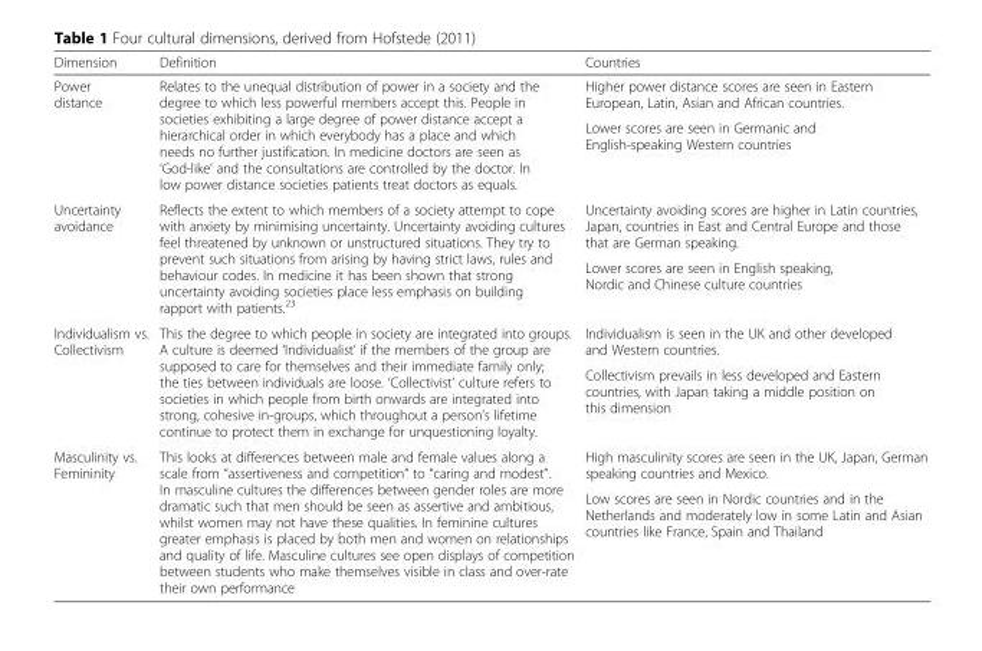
<table><thead><tr><td>Dimension</td><td>Definition</td><td>Countries</td></tr></thead><tbody><tr><td rowspan="2">Power distance</td><td rowspan="2">Relates to the unequal distribution of power in a society and the degree to which less powerful members accept this. People in societies exhibiting a large degree of power distance accept a hierarchical order in which everybody has a place and which needs no further justification. In medicine doctors are seen as ‘God-like’ and the consultations are controlled by the doctor. In low power distance societies patients treat doctors as equals.</td><td>Higher power distance scores are seen in Eastern European, Latin, Asian and African countries.</td></tr><tr><td>Lower scores are seen in Germanic and English-speaking Western countries</td></tr><tr><td rowspan="2">Uncertainty avoidance</td><td rowspan="2">Reflects the extent to which members of a society attempt to cope with anxiety by minimising uncertainty. Uncertainty avoiding cultures feel threatened by unknown or unstructured situations. They try to prevent such situations from arising by having strict laws, rules and behaviour codes. In medicine it has been shown that strong uncertainty avoiding societies place less emphasis on building rapport with patients.<sup>23</sup></td><td>Uncertainty avoiding scores are higher in Latin countries, Japan, countries in East and Central Europe and those that are German speaking.</td></tr><tr><td>Lower scores are seen in English speaking, Nordic and Chinese culture countries</td></tr><tr><td rowspan="2">Individualism vs. Collectivism</td><td rowspan="2">This the degree to which people in society are integrated into groups. A culture is deemed ‘Individualist’ if the members of the group are supposed to care for themselves and their immediate family only; the ties between individuals are loose. ‘Collectivist’ culture refers to societies in which people from birth onwards are integrated into strong, cohesive in-groups, which throughout a person’s lifetime continue to protect them in exchange for unquestioning loyalty.</td><td>Individualism is seen in the UK and other developed and Western countries.</td></tr><tr><td>Collectivism prevails in less developed and Eastern countries, with Japan taking a middle position on this dimension</td></tr><tr><td rowspan="2">Masculinity vs. Femininity</td><td rowspan="2">This looks at differences between male and female values along a scale from “assertiveness and competition” to “caring and modest”. In masculine cultures the differences between gender roles are more dramatic such that men should be seen as assertive and ambitious, whilst women may not have these qualities. In feminine cultures greater emphasis is placed by both men and women on relationships and quality of life. Masculine cultures see open displays of competition between students who make themselves visible in class and over-rate their own performance</td><td>High masculinity scores are seen in the UK, Japan, German speaking countries and Mexico.</td></tr><tr><td>Low scores are seen in Nordic countries and in the Netherlands and moderately low in some Latin and Asian countries like France, Spain and Thailand</td></tr></tbody></table>